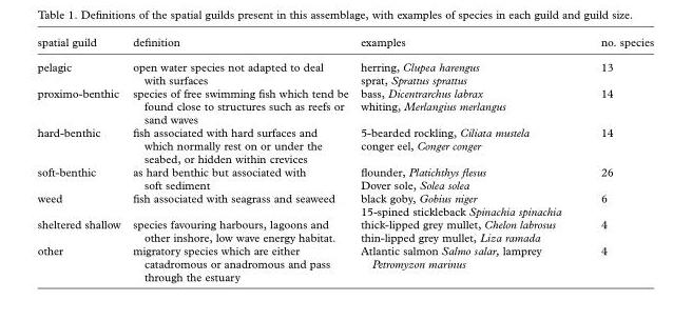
<table><thead><tr><td>spatial guild</td><td>definition</td><td>examples</td><td>no. species</td></tr></thead><tbody><tr><td rowspan="2">pelagic</td><td rowspan="2">open water species not adapted to deal with surfaces</td><td>herring, Clupea harengus</td><td rowspan="2">13</td></tr><tr><td>sprat, Sprattus sprattus</td></tr><tr><td rowspan="2">proximo-benthic</td><td rowspan="2">species of free swimming fish which tend be found close to structures such as reefs or sand waves</td><td>bass, Dicentrarchus labrax</td><td rowspan="2">14</td></tr><tr><td>whiting, Merlangius merlangus</td></tr><tr><td rowspan="2">hard-benthic</td><td rowspan="2">fish associated with hard surfaces and which normally rest on or under the seabed, or hidden within crevices</td><td>5-bearded rockling, Ciliata mustela</td><td rowspan="2">14</td></tr><tr><td>conger eel, Conger conger</td></tr><tr><td rowspan="2">soft-benthic</td><td rowspan="2">as hard benthic but associated with soft sediment</td><td>flounder, Platichthys flesus</td><td rowspan="2">26</td></tr><tr><td>Dover sole, Solea solea</td></tr><tr><td rowspan="2">weed</td><td rowspan="2">fish associated with seagrass and seaweed</td><td>black goby, Gobius niger</td><td rowspan="2">6</td></tr><tr><td>15-spined stickleback Spinachia spinachia</td></tr><tr><td rowspan="2">sheltered shallow</td><td rowspan="2">species favouring harbours, lagoons and other inshore, low wave energy habitat.</td><td>thick-lipped grey mullet, Chelon labrosus</td><td rowspan="2">4</td></tr><tr><td>thin-lipped grey mullet, Liza ramada</td></tr><tr><td>other</td><td>migratory species which are either catadromous or anadromous and pass through the estuary</td><td>Atlantic salmon Salmo salar, lamprey Petromyzon marinus</td><td>4</td></tr></tbody></table>